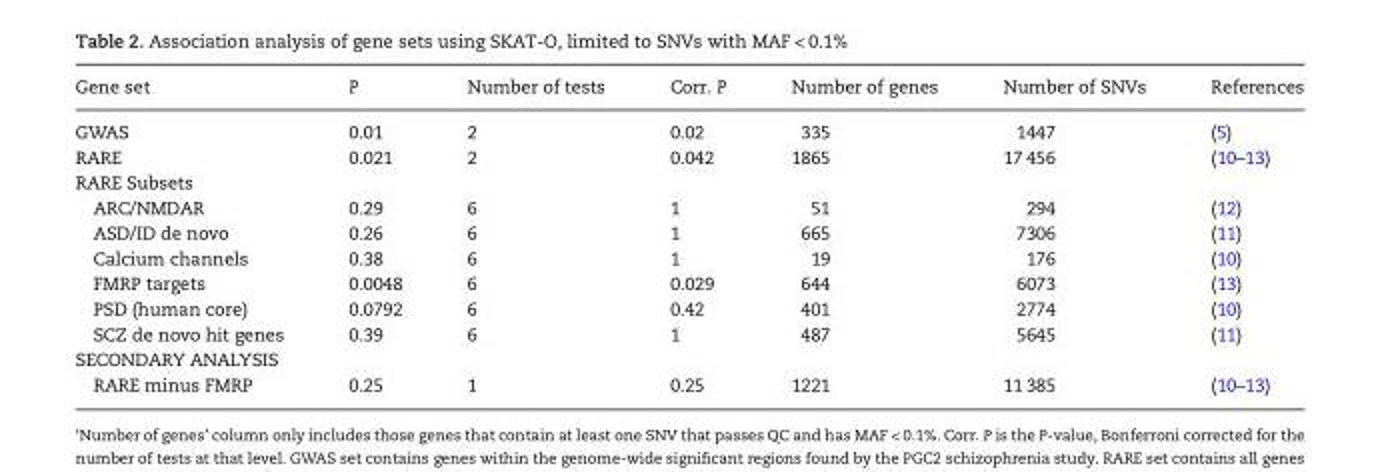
<table><thead><tr><td>Gene set</td><td>P</td><td>Number of tests</td><td>Corr. P</td><td>Number of genes</td><td>Number of SNVs</td><td>References</td></tr></thead><tbody><tr><td>GWAS</td><td>0.01</td><td>2</td><td>0.02</td><td>335</td><td>1447</td><td>(5)</td></tr><tr><td>RARE</td><td>0.021</td><td>2</td><td>0.042</td><td>1865</td><td>17 456</td><td>(10–13)</td></tr><tr><td colspan="7">RARE Subsets</td></tr><tr><td>ARC/NMDAR</td><td>0.29</td><td>6</td><td>1</td><td>51</td><td>294</td><td>(12)</td></tr><tr><td>ASD/ID de novo</td><td>0.26</td><td>6</td><td>1</td><td>665</td><td>7306</td><td>(11)</td></tr><tr><td>Calcium channels</td><td>0.38</td><td>6</td><td>1</td><td>19</td><td>176</td><td>(10)</td></tr><tr><td>FMRP targets</td><td>0.0048</td><td>6</td><td>0.029</td><td>644</td><td>6073</td><td>(13)</td></tr><tr><td>PSD (human core)</td><td>0.0792</td><td>6</td><td>0.42</td><td>401</td><td>2774</td><td>(10)</td></tr><tr><td>SCZ de novo hit genes</td><td>0.39</td><td>6</td><td>1</td><td>487</td><td>5645</td><td>(11)</td></tr><tr><td colspan="7">SECONDARY ANALYSIS</td></tr><tr><td>RARE minus FMRP</td><td>0.25</td><td>1</td><td>0.25</td><td>1221</td><td>11 385</td><td>(10–13)</td></tr></tbody></table>